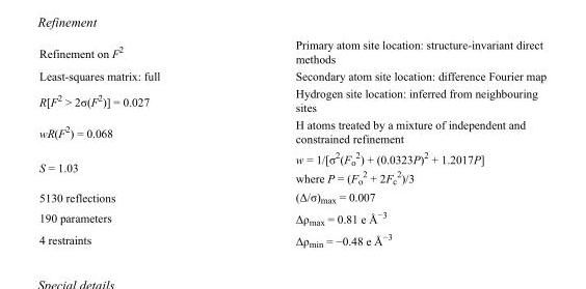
<table><tbody><tr><td>Refinement on F<sup>2</sup></td><td>Primary atom site location: structure-invariant direct methods</td></tr><tr><td>Least-squares matrix: full</td><td>Secondary atom site location: difference Fourier map</td></tr><tr><td>R[F<sup>2</sup> &gt; 2σ(F<sup>2</sup>)] = 0.027</td><td>Hydrogen site location: inferred from neighbouring sites</td></tr><tr><td>wR(F<sup>2</sup>) = 0.068</td><td>H atoms treated by a mixture of independent and constrained refinement</td></tr><tr><td>S = 1.03</td><td>w = 1/[σ<sup>2</sup>(F<sub>o</sub> <sup>2</sup>) + (0.0323P)<sup>2</sup> + 1.2017P] where P = (F<sub>o</sub> <sup>2</sup> + 2F<sub>c</sub> <sup>2</sup>)/3</td></tr><tr><td>5130 reflections</td><td>(Δ/σ)<sub>max</sub> = 0.007</td></tr><tr><td>190 parameters</td><td>Δρ<sub>max</sub> = 0.81 e Å<sup>−3</sup></td></tr><tr><td>4 restraints</td><td>Δρ<sub>min</sub> = −0.48 e Å<sup>−3</sup></td></tr></tbody></table>